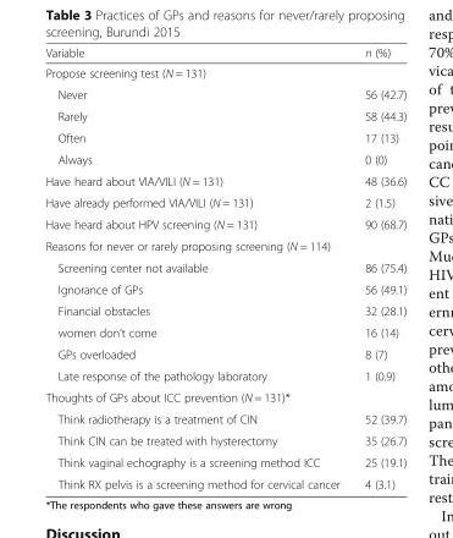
<table><thead><tr><td>Variable</td><td>n (%)</td></tr></thead><tbody><tr><td colspan="2">Propose screening test (N = 131)</td></tr><tr><td>Never</td><td>56 (42.7)</td></tr><tr><td>Rarely</td><td>58 (44.3)</td></tr><tr><td>Often</td><td>17 (13)</td></tr><tr><td>Always</td><td>0 (0)</td></tr><tr><td>Have heard about VIA/VILI (N = 131)</td><td>48 (36.6)</td></tr><tr><td>Have already performed VIA/VILI (N = 131)</td><td>2 (1.5)</td></tr><tr><td>Have heard about HPV screening (N = 131)</td><td>90 (68.7)</td></tr><tr><td colspan="2">Reasons for never or rarely proposing screening (N = 114)</td></tr><tr><td>Screening center not available</td><td>86 (75.4)</td></tr><tr><td>Ignorance of GPs</td><td>56 (49.1)</td></tr><tr><td>Financial obstacles</td><td>32 (28.1)</td></tr><tr><td>women don’t come</td><td>16 (14)</td></tr><tr><td>GPs overloaded</td><td>8 (7)</td></tr><tr><td>Late response of the pathology laboratory</td><td>1 (0.9)</td></tr><tr><td colspan="2">Thoughts of GPs about ICC prevention (N = 131)*</td></tr><tr><td>Think radiotherapy is a treatment of CIN</td><td>52 (39.7)</td></tr><tr><td>Think CIN can be treated with hysterectomy</td><td>35 (26.7)</td></tr><tr><td>Think vaginal echography is a screening method ICC</td><td>25 (19.1)</td></tr><tr><td>Think RX pelvis is a screening method for cervical cancer</td><td>4 (3.1)</td></tr></tbody></table>